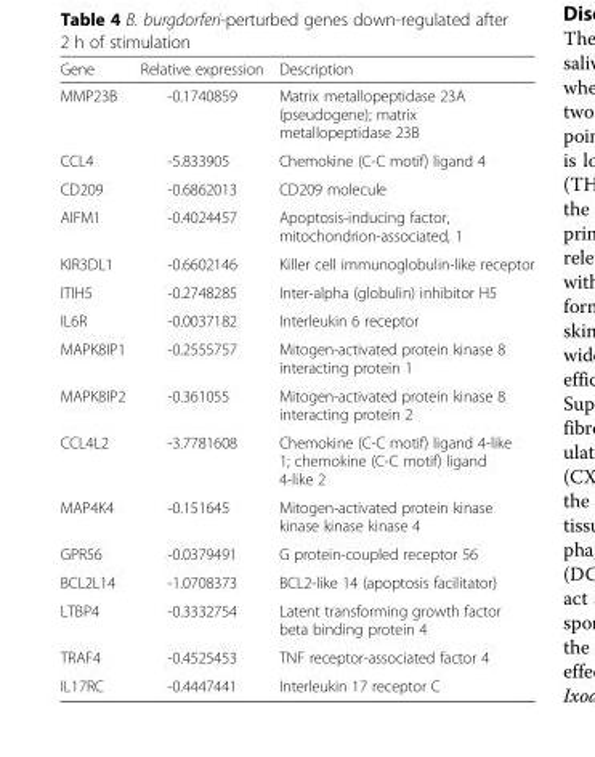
<table><thead><tr><td>Gene</td><td>Relative expression</td><td>Description</td></tr></thead><tbody><tr><td>MMP23B</td><td>-0.1740859</td><td>Matrix metallopeptidase 23A (pseudogene); matrix metallopeptidase 23B</td></tr><tr><td>CCL4</td><td>-5.833905</td><td>Chemokine (C-C motif) ligand 4</td></tr><tr><td>CD209</td><td>-0.6862013</td><td>CD209 molecule</td></tr><tr><td>AIFM1</td><td>-0.4024457</td><td>Apoptosis-inducing factor, mitochondrion-associated, 1</td></tr><tr><td>KIR3DL1</td><td>-0.6602146</td><td>Killer cell immunoglobulin-like receptor</td></tr><tr><td>ITIH5</td><td>-0.2748285</td><td>Inter-alpha (globulin) inhibitor H5</td></tr><tr><td>IL6R</td><td>-0.0037182</td><td>Interleukin 6 receptor</td></tr><tr><td>MAPK8IP1</td><td>-0.2555757</td><td>Mitogen-activated protein kinase 8 interacting protein 1</td></tr><tr><td>MAPK8IP2</td><td>-0.361055</td><td>Mitogen-activated protein kinase 8 interacting protein 2</td></tr><tr><td>CCL4L2</td><td>-3.7781608</td><td>Chemokine (C-C motif) ligand 4-like 1; chemokine (C-C motif) ligand 4-like 2</td></tr><tr><td>MAP4K4</td><td>-0.151645</td><td>Mitogen-activated protein kinase kinase kinase kinase 4</td></tr><tr><td>GPR56</td><td>-0.0379491</td><td>G protein-coupled receptor 56</td></tr><tr><td>BCL2L14</td><td>-1.0708373</td><td>BCL2-like 14 (apoptosis facilitator)</td></tr><tr><td>LTBP4</td><td>-0.3332754</td><td>Latent transforming growth factor beta binding protein 4</td></tr><tr><td>TRAF4</td><td>-0.4525453</td><td>TNF receptor-associated factor 4</td></tr><tr><td>IL17RC</td><td>-0.4447441</td><td>Interleukin 17 receptor C</td></tr></tbody></table>